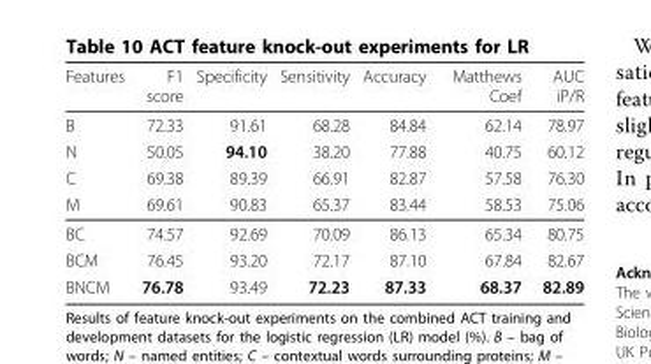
<table><thead><tr><td>Features</td><td>F1 score</td><td>Specificity</td><td>Sensitivity</td><td>Accuracy</td><td>Matthews Coef</td><td>AUC iP/R</td></tr></thead><tbody><tr><td>B</td><td>72.33</td><td>91.61</td><td>68.28</td><td>84.84</td><td>62.14</td><td>78.97</td></tr><tr><td>N</td><td>50.05</td><td>94.10</td><td>38.20</td><td>77.88</td><td>40.75</td><td>60.12</td></tr><tr><td>C</td><td>69.38</td><td>89.39</td><td>66.91</td><td>82.87</td><td>57.58</td><td>76.30</td></tr><tr><td>M</td><td>69.61</td><td>90.83</td><td>65.37</td><td>83.44</td><td>58.53</td><td>75.06</td></tr><tr><td>BC</td><td>74.57</td><td>92.69</td><td>70.09</td><td>86.13</td><td>65.34</td><td>80.75</td></tr><tr><td>BCM</td><td>76.45</td><td>93.20</td><td>72.17</td><td>87.10</td><td>67.84</td><td>82.67</td></tr><tr><td>BNCM</td><td>76.78</td><td>93.49</td><td>72.23</td><td>87.33</td><td>68.37</td><td>82.89</td></tr></tbody></table>